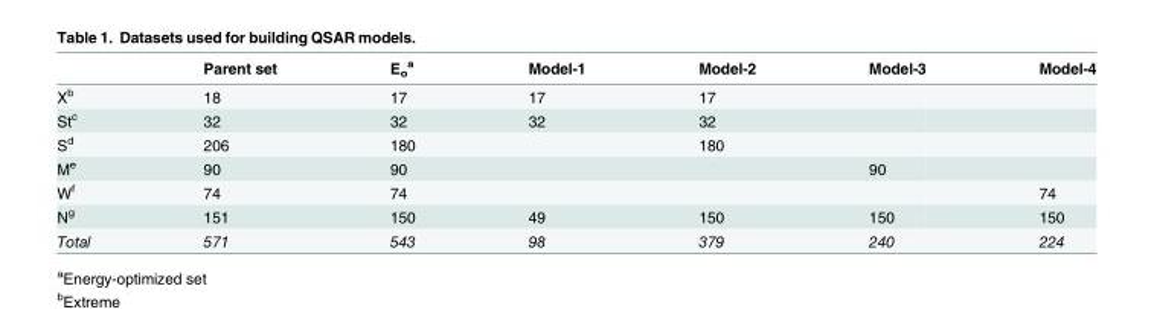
<table><thead><tr><td></td><td>Parent set</td><td>E<sub>o</sub> <sup>a</sup></td><td>Model-1</td><td>Model-2</td><td>Model-3</td><td>Model-4</td></tr></thead><tbody><tr><td>X<sup>b</sup></td><td>18</td><td>17</td><td>17</td><td>17</td><td></td><td></td></tr><tr><td>St<sup>c</sup></td><td>32</td><td>32</td><td>32</td><td>32</td><td></td><td></td></tr><tr><td>S<sup>d</sup></td><td>206</td><td>180</td><td></td><td>180</td><td></td><td></td></tr><tr><td>M<sup>e</sup></td><td>90</td><td>90</td><td></td><td></td><td>90</td><td></td></tr><tr><td>W<sup>f</sup></td><td>74</td><td>74</td><td></td><td></td><td></td><td>74</td></tr><tr><td>N<sup>g</sup></td><td>151</td><td>150</td><td>49</td><td>150</td><td>150</td><td>150</td></tr><tr><td>Total</td><td>571</td><td>543</td><td>98</td><td>379</td><td>240</td><td>224</td></tr></tbody></table>